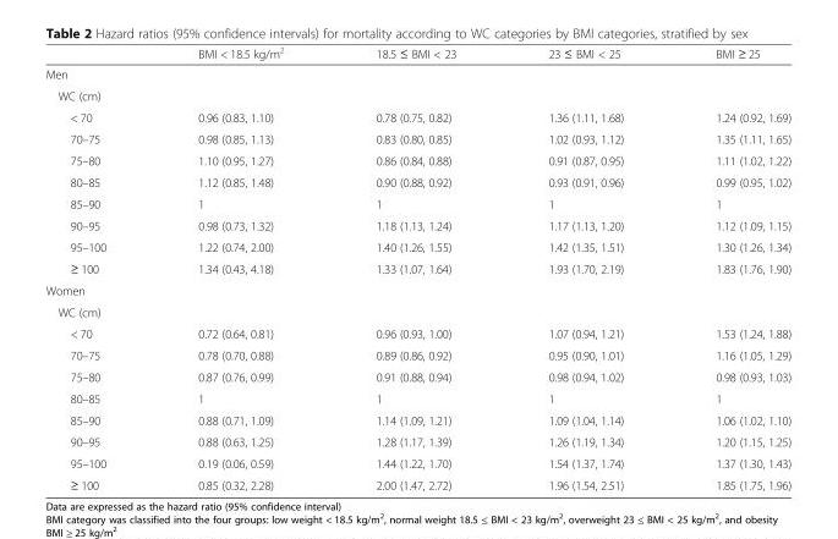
<table><thead><tr><td></td><td>BMI &lt; 18.5 kg/m<sup>2</sup></td><td>18.5 ≤ BMI &lt; 23</td><td>23 ≤ BMI &lt; 25</td><td>BMI ≥ 25</td></tr></thead><tbody><tr><td colspan="5">Men</td></tr><tr><td colspan="5">WC (cm)</td></tr><tr><td>&lt; 70</td><td>0.96 (0.83, 1.10)</td><td>0.78 (0.75, 0.82)</td><td>1.36 (1.11, 1.68)</td><td>1.24 (0.92, 1.69)</td></tr><tr><td>70–75</td><td>0.98 (0.85, 1.13)</td><td>0.83 (0.80, 0.85)</td><td>1.02 (0.93, 1.12)</td><td>1.35 (1.11, 1.65)</td></tr><tr><td>75–80</td><td>1.10 (0.95, 1.27)</td><td>0.86 (0.84, 0.88)</td><td>0.91 (0.87, 0.95)</td><td>1.11 (1.02, 1.22)</td></tr><tr><td>80–85</td><td>1.12 (0.85, 1.48)</td><td>0.90 (0.88, 0.92)</td><td>0.93 (0.91, 0.96)</td><td>0.99 (0.95, 1.02)</td></tr><tr><td>85–90</td><td>1</td><td>1</td><td>1</td><td>1</td></tr><tr><td>90–95</td><td>0.98 (0.73, 1.32)</td><td>1.18 (1.13, 1.24)</td><td>1.17 (1.13, 1.20)</td><td>1.12 (1.09, 1.15)</td></tr><tr><td>95–100</td><td>1.22 (0.74, 2.00)</td><td>1.40 (1.26, 1.55)</td><td>1.42 (1.35, 1.51)</td><td>1.30 (1.26, 1.34)</td></tr><tr><td>≥ 100</td><td>1.34 (0.43, 4.18)</td><td>1.33 (1.07, 1.64)</td><td>1.93 (1.70, 2.19)</td><td>1.83 (1.76, 1.90)</td></tr><tr><td colspan="5">Women</td></tr><tr><td colspan="5">WC (cm)</td></tr><tr><td>&lt; 70</td><td>0.72 (0.64, 0.81)</td><td>0.96 (0.93, 1.00)</td><td>1.07 (0.94, 1.21)</td><td>1.53 (1.24, 1.88)</td></tr><tr><td>70–75</td><td>0.78 (0.70, 0.88)</td><td>0.89 (0.86, 0.92)</td><td>0.95 (0.90, 1.01)</td><td>1.16 (1.05, 1.29)</td></tr><tr><td>75–80</td><td>0.87 (0.76, 0.99)</td><td>0.91 (0.88, 0.94)</td><td>0.98 (0.94, 1.02)</td><td>0.98 (0.93, 1.03)</td></tr><tr><td>80–85</td><td>1</td><td>1</td><td>1</td><td>1</td></tr><tr><td>85–90</td><td>0.88 (0.71, 1.09)</td><td>1.14 (1.09, 1.21)</td><td>1.09 (1.04, 1.14)</td><td>1.06 (1.02, 1.10)</td></tr><tr><td>90–95</td><td>0.88 (0.63, 1.25)</td><td>1.28 (1.17, 1.39)</td><td>1.26 (1.19, 1.34)</td><td>1.20 (1.15, 1.25)</td></tr><tr><td>95–100</td><td>0.19 (0.06, 0.59)</td><td>1.44 (1.22, 1.70)</td><td>1.54 (1.37, 1.74)</td><td>1.37 (1.30, 1.43)</td></tr><tr><td>≥ 100</td><td>0.85 (0.32, 2.28)</td><td>2.00 (1.47, 2.72)</td><td>1.96 (1.54, 2.51)</td><td>1.85 (1.75, 1.96)</td></tr></tbody></table>